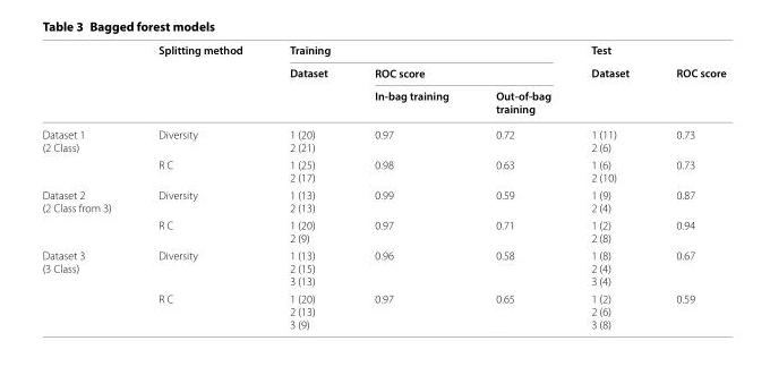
<table><thead><tr><td rowspan="3"></td><td rowspan="3">Splitting method</td><td colspan="3">Training</td><td rowspan="3">Test Dataset</td><td rowspan="3">ROC score</td></tr><tr><td rowspan="2">Dataset</td><td colspan="2">ROC score</td></tr><tr><td>In-bag training</td><td>Out-of-bag training</td></tr></thead><tbody><tr><td rowspan="2">Dataset 1 (2 Class)</td><td>Diversity</td><td>1 (20) 2 (21)</td><td>0.97</td><td>0.72</td><td>1 (11) 2 (6)</td><td>0.73</td></tr><tr><td>R C</td><td>1 (25) 2 (17)</td><td>0.98</td><td>0.63</td><td>1 (6) 2 (10)</td><td>0.73</td></tr><tr><td rowspan="2">Dataset 2 (2 Class from 3)</td><td>Diversity</td><td>1 (13) 2 (13)</td><td>0.99</td><td>0.59</td><td>1 (9) 2 (4)</td><td>0.87</td></tr><tr><td>R C</td><td>1 (20) 2 (9)</td><td>0.97</td><td>0.71</td><td>1 (2) 2 (8)</td><td>0.94</td></tr><tr><td rowspan="2">Dataset 3 (3 Class)</td><td>Diversity</td><td>1 (13) 2 (15) 3 (13)</td><td>0.96</td><td>0.58</td><td>1 (8) 2 (4) 3 (4)</td><td>0.67</td></tr><tr><td>R C</td><td>1 (20) 2 (13) 3 (9)</td><td>0.97</td><td>0.65</td><td>1 (2) 2 (6) 3 (8)</td><td>0.59</td></tr></tbody></table>